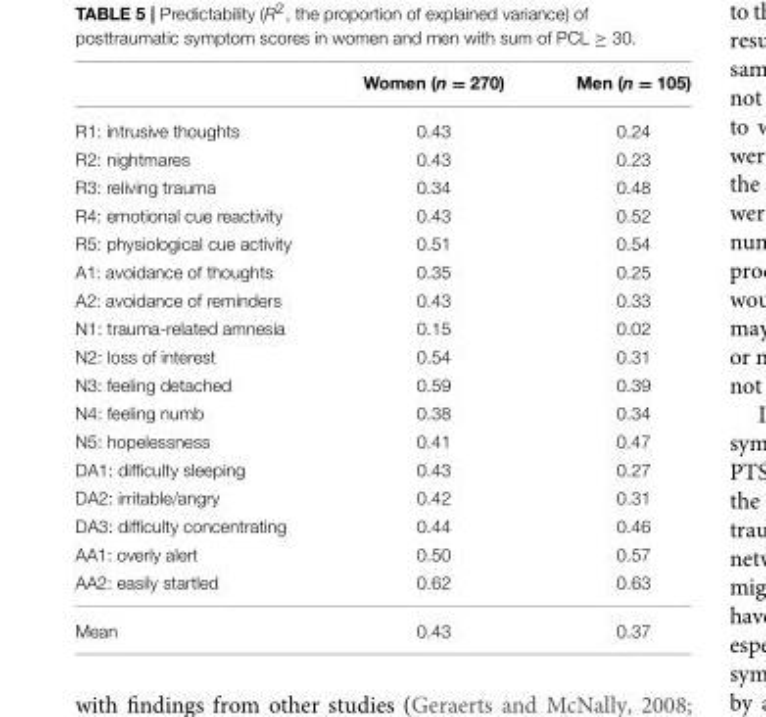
<table><thead><tr><td></td><td>Women (n = 270)</td><td>Men (n = 105)</td></tr></thead><tbody><tr><td>R1: intrusive thoughts</td><td>0.43</td><td>0.24</td></tr><tr><td>R2: nightmares</td><td>0.43</td><td>0.23</td></tr><tr><td>R3: reliving trauma</td><td>0.34</td><td>0.48</td></tr><tr><td>R4: emotional cue reactivity</td><td>0.43</td><td>0.52</td></tr><tr><td>R5: physiological cue activity</td><td>0.51</td><td>0.54</td></tr><tr><td>A1: avoidance of thoughts</td><td>0.35</td><td>0.25</td></tr><tr><td>A2: avoidance of reminders</td><td>0.43</td><td>0.33</td></tr><tr><td>N1: trauma-related amnesia</td><td>0.15</td><td>0.02</td></tr><tr><td>N2: loss of interest</td><td>0.54</td><td>0.31</td></tr><tr><td>N3: feeling detached</td><td>0.59</td><td>0.39</td></tr><tr><td>N4: feeling numb</td><td>0.38</td><td>0.34</td></tr><tr><td>N5: hopelessness</td><td>0.41</td><td>0.47</td></tr><tr><td>DA1: difficulty sleeping</td><td>0.43</td><td>0.27</td></tr><tr><td>DA2: irritable/angry</td><td>0.42</td><td>0.31</td></tr><tr><td>DA3: difficulty concentrating</td><td>0.44</td><td>0.46</td></tr><tr><td>AA1: overly alert</td><td>0.50</td><td>0.57</td></tr><tr><td>AA2: easily startled</td><td>0.62</td><td>0.63</td></tr><tr><td>Mean</td><td>0.43</td><td>0.37</td></tr></tbody></table>